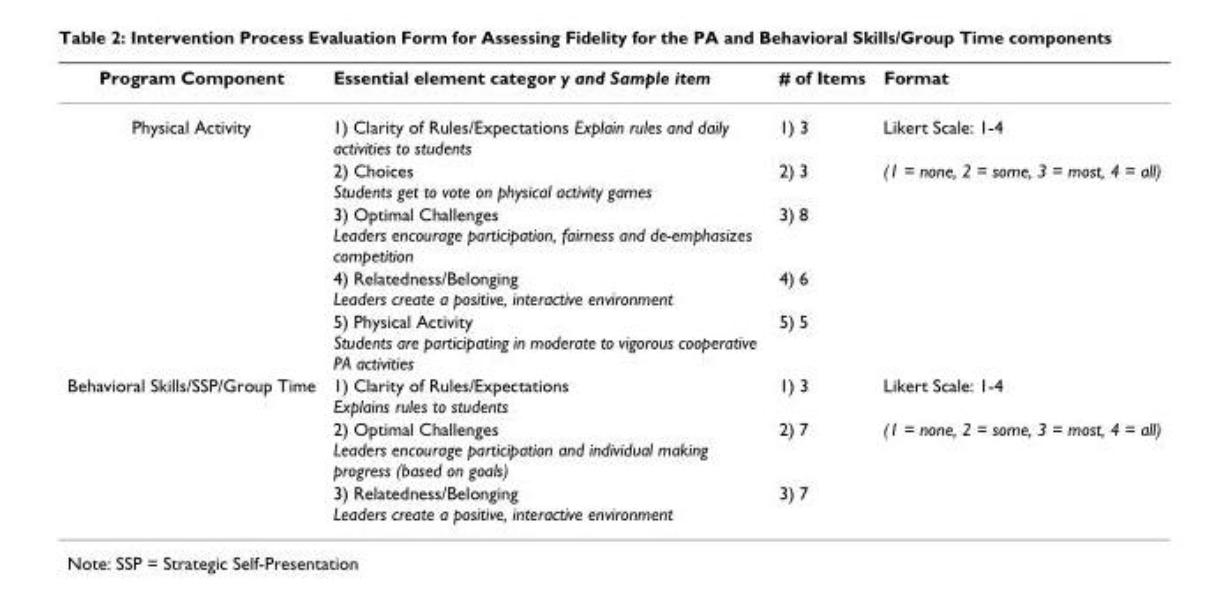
<table><thead><tr><td>Program Component</td><td>Essential element categor y and Sample item</td><td># of Items</td><td>Format</td></tr></thead><tbody><tr><td rowspan="5">Physical Activity</td><td>1) Clarity of Rules/Expectations Explain rules and daily activities to students</td><td>1) 3</td><td>Likert Scale: 1-4</td></tr><tr><td>2) Choices Students get to vote on physical activity games</td><td>2) 3</td><td>(1 = none, 2 = some, 3 = most, 4 = all)</td></tr><tr><td>3) Optimal Challenges Leaders encourage participation, fairness and de-emphasizes competition</td><td>3) 8</td><td></td></tr><tr><td>4) Relatedness/Belonging Leaders create a positive, interactive environment</td><td>4) 6</td><td></td></tr><tr><td>5) Physical Activity Students are participating in moderate to vigorous cooperative PA activities</td><td>5) 5</td><td></td></tr><tr><td rowspan="3">Behavioral Skills/SSP/Group Time</td><td>1) Clarity of Rules/Expectations Explains rules to students</td><td>1) 3</td><td>Likert Scale: 1-4</td></tr><tr><td>2) Optimal Challenges Leaders encourage participation and individual making progress (based on goals)</td><td>2) 7</td><td>(1 = none, 2 = some, 3 = most, 4 = all)</td></tr><tr><td>3) Relatedness/Belonging Leaders create a positive, interactive environment</td><td>3) 7</td><td></td></tr></tbody></table>